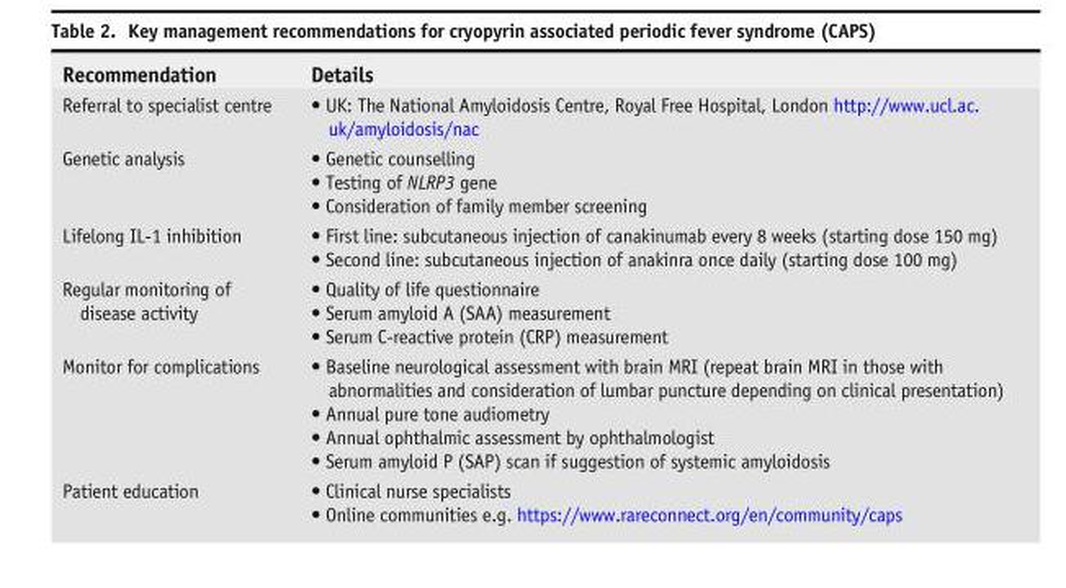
<table><thead><tr><td>Recommendation</td><td>Details</td></tr></thead><tbody><tr><td>Referral to specialist centre</td><td>• UK: The National Amyloidosis Centre, Royal Free Hospital, London http://www.ucl.ac. uk/amyloidosis/nac</td></tr><tr><td>Genetic analysis</td><td>• Genetic counselling • Testing of NLRP3 gene • Consideration of family member screening</td></tr><tr><td>Lifelong IL-1 inhibition</td><td>• First line: subcutaneous injection of canakinumab every 8 weeks (starting dose 150 mg) • Second line: subcutaneous injection of anakinra once daily (starting dose 100 mg)</td></tr><tr><td>Regular monitoring of disease activity</td><td>• Quality of life questionnaire • Serum amyloid A (SAA) measurement • Serum C-reactive protein (CRP) measurement</td></tr><tr><td>Monitor for complications</td><td>• Baseline neurological assessment with brain MRI (repeat brain MRI in those with abnormalities and consideration of lumbar puncture depending on clinical presentation) • Annual pure tone audiometry • Annual ophthalmic assessment by ophthalmologist • Serum amyloid P (SAP) scan if suggestion of systemic amyloidosis</td></tr><tr><td>Patient education</td><td>• Clinical nurse specialists • Online communities e.g. https://www.rareconnect.org/en/community/caps</td></tr></tbody></table>